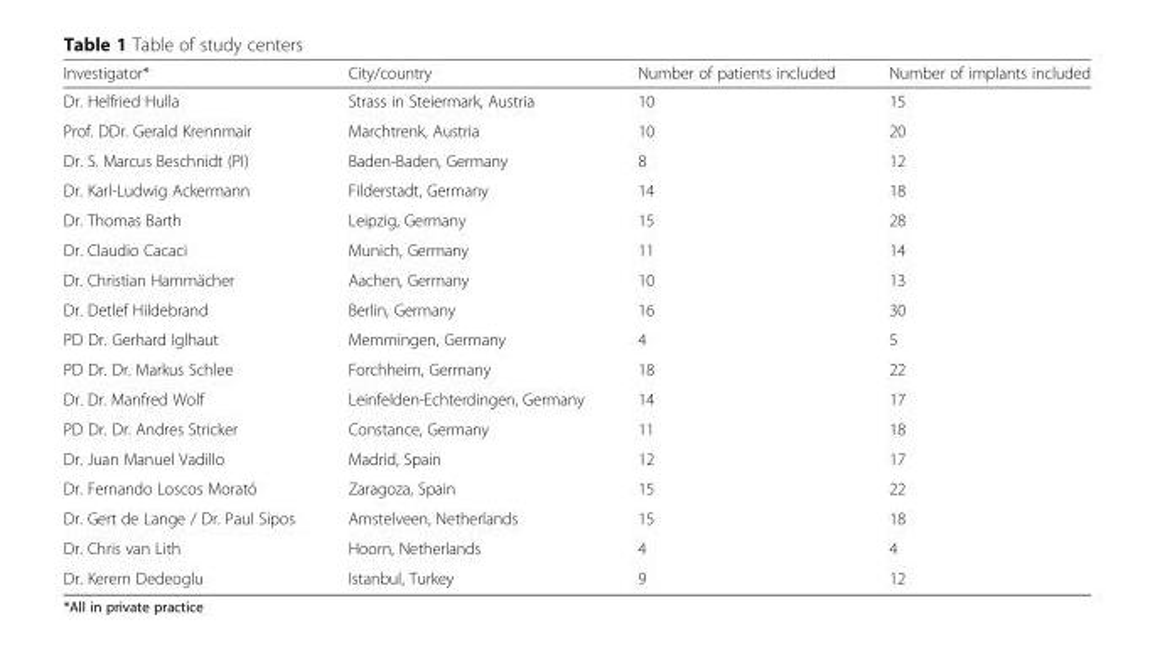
<table><thead><tr><td>Investigator*</td><td>City/country</td><td>Number of patients included</td><td>Number of implants included</td></tr></thead><tbody><tr><td>Dr. Helfried Hulla</td><td>Strass in Steiermark, Austria</td><td>10</td><td>15</td></tr><tr><td>Prof. DDr. Gerald Krennmair</td><td>Marchtrenk, Austria</td><td>10</td><td>20</td></tr><tr><td>Dr. S. Marcus Beschnidt (PI)</td><td>Baden-Baden, Germany</td><td>8</td><td>12</td></tr><tr><td>Dr. Karl-Ludwig Ackermann</td><td>Filderstadt, Germany</td><td>14</td><td>18</td></tr><tr><td>Dr. Thomas Barth</td><td>Leipzig, Germany</td><td>15</td><td>28</td></tr><tr><td>Dr. Claudio Cacaci</td><td>Munich, Germany</td><td>11</td><td>14</td></tr><tr><td>Dr. Christian Hammächer</td><td>Aachen, Germany</td><td>10</td><td>13</td></tr><tr><td>Dr. Detlef Hildebrand</td><td>Berlin, Germany</td><td>16</td><td>30</td></tr><tr><td>PD Dr. Gerhard Iglhaut</td><td>Memmingen, Germany</td><td>4</td><td>5</td></tr><tr><td>PD Dr. Dr. Markus Schlee</td><td>Forchheim, Germany</td><td>18</td><td>22</td></tr><tr><td>Dr. Dr. Manfred Wolf</td><td>Leinfelden-Echterdingen, Germany</td><td>14</td><td>17</td></tr><tr><td>PD Dr. Dr. Andres Stricker</td><td>Constance, Germany</td><td>11</td><td>18</td></tr><tr><td>Dr. Juan Manuel Vadillo</td><td>Madrid, Spain</td><td>12</td><td>17</td></tr><tr><td>Dr. Fernando Loscos Morató</td><td>Zaragoza, Spain</td><td>15</td><td>22</td></tr><tr><td>Dr. Gert de Lange / Dr. Paul Sipos</td><td>Amstelveen, Netherlands</td><td>15</td><td>18</td></tr><tr><td>Dr. Chris van Lith</td><td>Hoorn, Netherlands</td><td>4</td><td>4</td></tr><tr><td>Dr. Kerem Dedeoglu</td><td>Istanbul, Turkey</td><td>9</td><td>12</td></tr></tbody></table>